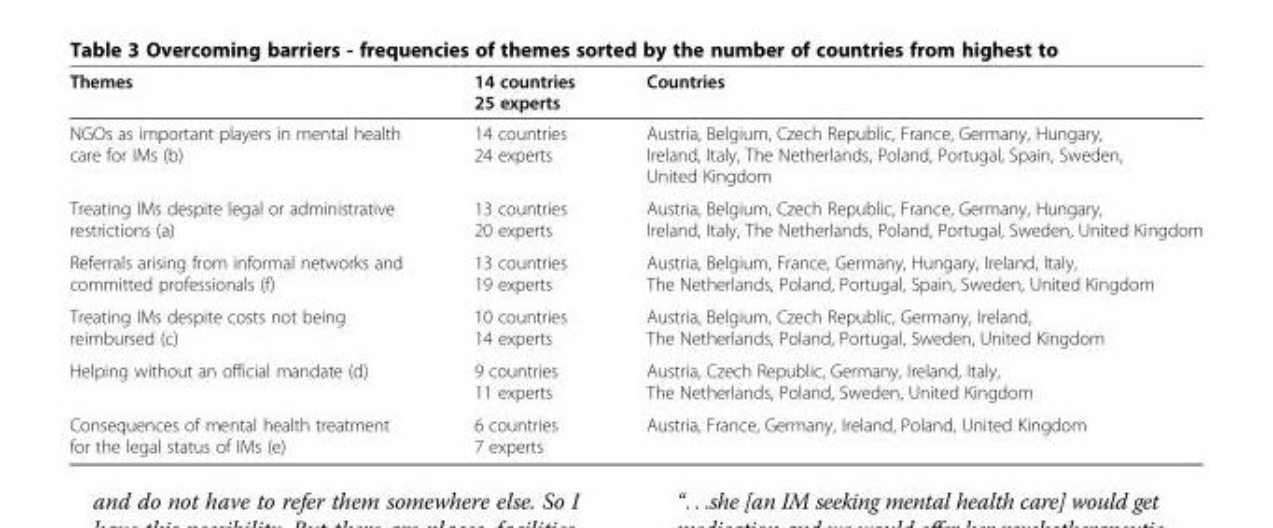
<table><thead><tr><td>Themes</td><td>14 countries 25 experts</td><td>Countries</td></tr></thead><tbody><tr><td>NGOs as important players in mental health care for IMs (b)</td><td>14 countries 24 experts</td><td>Austria, Belgium, Czech Republic, France, Germany, Hungary, Ireland, Italy, The Netherlands, Poland, Portugal, Spain, Sweden, United Kingdom</td></tr><tr><td>Treating IMs despite legal or administrative restrictions (a)</td><td>13 countries 20 experts</td><td>Austria, Belgium, Czech Republic, France, Germany, Hungary, Ireland, Italy, The Netherlands, Poland, Portugal, Sweden, United Kingdom</td></tr><tr><td>Referrals arising from informal networks and committed professionals (f)</td><td>13 countries 19 experts</td><td>Austria, Belgium, France, Germany, Hungary, Ireland, Italy, The Netherlands, Poland, Portugal, Spain, Sweden, United Kingdom</td></tr><tr><td>Treating IMs despite costs not being reimbursed (c)</td><td>10 countries 14 experts</td><td>Austria, Belgium, Czech Republic, Germany, Ireland, The Netherlands, Poland, Portugal, Sweden, United Kingdom</td></tr><tr><td>Helping without an official mandate (d)</td><td>9 countries 11 experts</td><td>Austria, Czech Republic, Germany, Ireland, Italy, The Netherlands, Poland, Sweden, United Kingdom</td></tr><tr><td>Consequences of mental health treatment for the legal status of IMs (e)</td><td>6 countries 7 experts</td><td>Austria, France, Germany, Ireland, Poland, United Kingdom</td></tr></tbody></table>